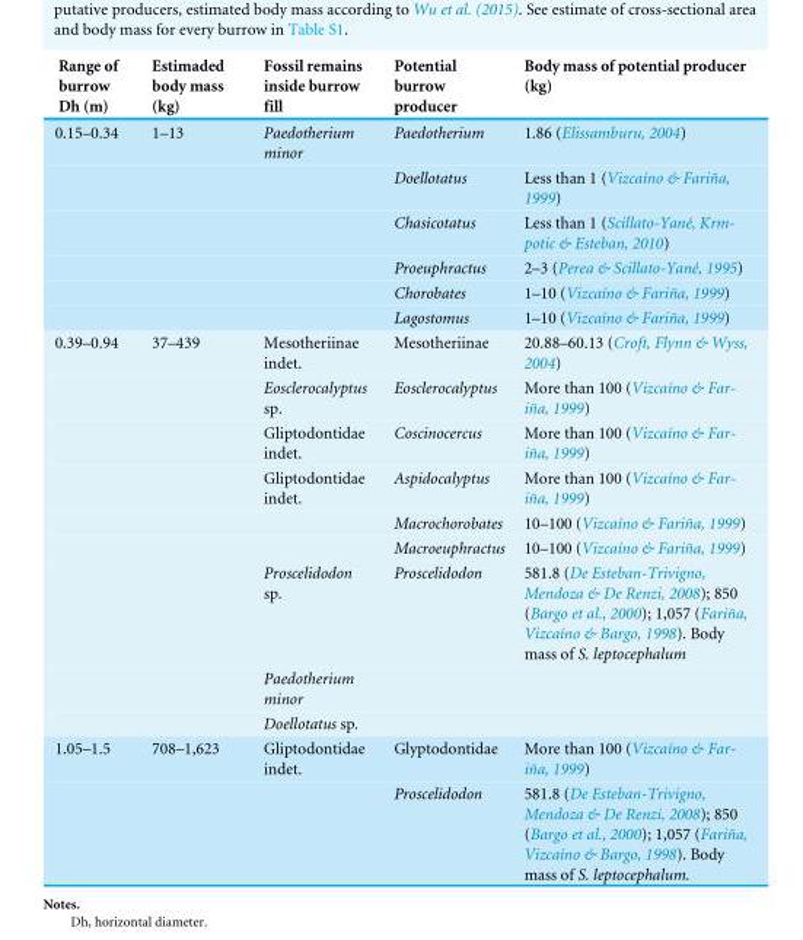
<table><thead><tr><td>Range of burrow Dh (m)</td><td>Estimaded body mass (kg)</td><td>Fossil remains inside burrow fill</td><td>Potential burrow producer</td><td>Body mass of potential producer (kg)</td></tr></thead><tbody><tr><td rowspan="6">0.15–0.34</td><td>1–13</td><td>Paedotherium minor</td><td>Paedotherium</td><td>1.86 (Elissamburu, 2004)</td></tr><tr><td></td><td></td><td>Doellotatus</td><td>Less than 1 (Vizcaíno &amp; Fariña, 1999)</td></tr><tr><td></td><td></td><td>Chasicotatus</td><td>Less than 1 (Scillato-Yané, Krm- potic &amp; Esteban, 2010)</td></tr><tr><td></td><td></td><td>Proeuphractus</td><td>2–3 (Perea &amp; Scillato-Yané, 1995)</td></tr><tr><td></td><td></td><td>Chorobates</td><td>1–10 (Vizcaíno &amp; Fariña, 1999)</td></tr><tr><td></td><td></td><td>Lagostomus</td><td>1–10 (Vizcaíno &amp; Fariña, 1999)</td></tr><tr><td rowspan="9">0.39–0.94</td><td>37–439</td><td>Mesotheriinae indet.</td><td>Mesotheriinae</td><td>20.88–60.13 (Croft, Flynn &amp; Wyss, 2004)</td></tr><tr><td></td><td>Eosclerocalyptus sp.</td><td>Eosclerocalyptus</td><td>More than 100 (Vizcaíno &amp; Far- iña, 1999)</td></tr><tr><td></td><td>Gliptodontidae indet.</td><td>Coscinocercus</td><td>More than 100 (Vizcaíno &amp; Far- iña, 1999)</td></tr><tr><td></td><td>Gliptodontidae indet.</td><td>Aspidocalyptus</td><td>More than 100 (Vizcaíno &amp; Far- iña, 1999)</td></tr><tr><td></td><td></td><td>Macrochorobates</td><td>10–100 (Vizcaíno &amp; Fariña, 1999)</td></tr><tr><td></td><td></td><td>Macroeuphractus</td><td>10–100 (Vizcaíno &amp; Fariña, 1999)</td></tr><tr><td></td><td>Proscelidodon sp.</td><td>Proscelidodon</td><td>581.8 (De Esteban-Trivigno, Mendoza &amp; De Renzi, 2008); 850 (Bargo et al., 2000); 1,057 (Fariña, Vizcaíno &amp; Bargo, 1998). Body mass of S. leptocephalum</td></tr><tr><td></td><td>Paedotherium minor</td><td></td><td></td></tr><tr><td></td><td>Doellotatus sp.</td><td></td><td></td></tr><tr><td rowspan="2">1.05–1.5</td><td>708–1,623</td><td>Gliptodontidae indet.</td><td>Glyptodontidae</td><td>More than 100 (Vizcaíno &amp; Far- iña, 1999)</td></tr><tr><td></td><td></td><td>Proscelidodon</td><td>581.8 (De Esteban-Trivigno, Mendoza &amp; De Renzi, 2008); 850 (Bargo et al., 2000); 1,057 (Fariña, Vizcaíno &amp; Bargo, 1998). Body mass of S. leptocephalum.</td></tr></tbody></table>